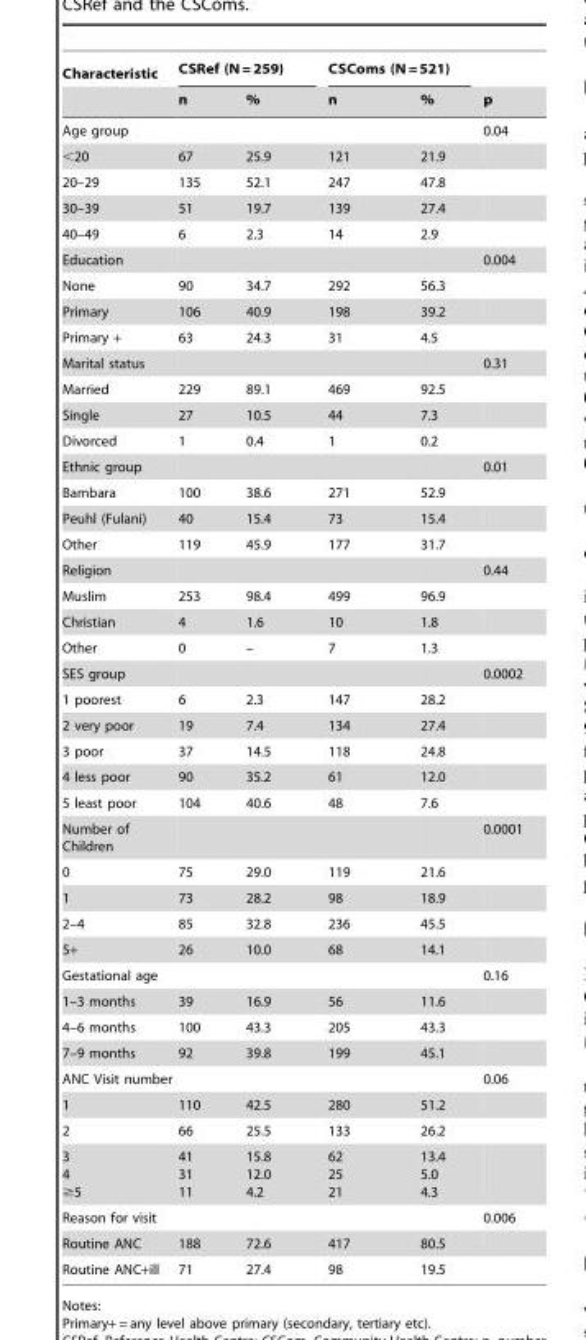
<table><thead><tr><td rowspan="2">Characteristic</td><td colspan="2">CSRef (N = 259)</td><td colspan="2">CSComs (N = 521)</td><td rowspan="2">p</td></tr><tr><td>n</td><td>%</td><td>n</td><td>%</td></tr></thead><tbody><tr><td>Age group</td><td></td><td></td><td></td><td></td><td>0.04</td></tr><tr><td>&lt;20</td><td>67</td><td>25.9</td><td>121</td><td>21.9</td><td></td></tr><tr><td>20–29</td><td>135</td><td>52.1</td><td>247</td><td>47.8</td><td></td></tr><tr><td>30–39</td><td>51</td><td>19.7</td><td>139</td><td>27.4</td><td></td></tr><tr><td>40–49</td><td>6</td><td>2.3</td><td>14</td><td>2.9</td><td></td></tr><tr><td>Education</td><td></td><td></td><td></td><td></td><td>0.004</td></tr><tr><td>None</td><td>90</td><td>34.7</td><td>292</td><td>56.3</td><td></td></tr><tr><td>Primary</td><td>106</td><td>40.9</td><td>198</td><td>39.2</td><td></td></tr><tr><td>Primary +</td><td>63</td><td>24.3</td><td>31</td><td>4.5</td><td></td></tr><tr><td>Marital status</td><td></td><td></td><td></td><td></td><td>0.31</td></tr><tr><td>Married</td><td>229</td><td>89.1</td><td>469</td><td>92.5</td><td></td></tr><tr><td>Single</td><td>27</td><td>10.5</td><td>44</td><td>7.3</td><td></td></tr><tr><td>Divorced</td><td>1</td><td>0.4</td><td>1</td><td>0.2</td><td></td></tr><tr><td>Ethnic group</td><td></td><td></td><td></td><td></td><td>0.01</td></tr><tr><td>Bambara</td><td>100</td><td>38.6</td><td>271</td><td>52.9</td><td></td></tr><tr><td>Peuhl (Fulani)</td><td>40</td><td>15.4</td><td>73</td><td>15.4</td><td></td></tr><tr><td>Other</td><td>119</td><td>45.9</td><td>177</td><td>31.7</td><td></td></tr><tr><td>Religion</td><td></td><td></td><td></td><td></td><td>0.44</td></tr><tr><td>Muslim</td><td>253</td><td>98.4</td><td>499</td><td>96.9</td><td></td></tr><tr><td>Christian</td><td>4</td><td>1.6</td><td>10</td><td>1.8</td><td></td></tr><tr><td>Other</td><td>0</td><td>–</td><td>7</td><td>1.3</td><td></td></tr><tr><td>SES group</td><td></td><td></td><td></td><td></td><td>0.0002</td></tr><tr><td>1 poorest</td><td>6</td><td>2.3</td><td>147</td><td>28.2</td><td></td></tr><tr><td>2 very poor</td><td>19</td><td>7.4</td><td>134</td><td>27.4</td><td></td></tr><tr><td>3 poor</td><td>37</td><td>14.5</td><td>118</td><td>24.8</td><td></td></tr><tr><td>4 less poor</td><td>90</td><td>35.2</td><td>61</td><td>12.0</td><td></td></tr><tr><td>5 least poor</td><td>104</td><td>40.6</td><td>48</td><td>7.6</td><td></td></tr><tr><td>Number of Children</td><td></td><td></td><td></td><td></td><td>0.0001</td></tr><tr><td>0</td><td>75</td><td>29.0</td><td>119</td><td>21.6</td><td></td></tr><tr><td>1</td><td>73</td><td>28.2</td><td>98</td><td>18.9</td><td></td></tr><tr><td>2–4</td><td>85</td><td>32.8</td><td>236</td><td>45.5</td><td></td></tr><tr><td>5+</td><td>26</td><td>10.0</td><td>68</td><td>14.1</td><td></td></tr><tr><td>Gestational age</td><td></td><td></td><td></td><td></td><td>0.16</td></tr><tr><td>1–3 months</td><td>39</td><td>16.9</td><td>56</td><td>11.6</td><td></td></tr><tr><td>4–6 months</td><td>100</td><td>43.3</td><td>205</td><td>43.3</td><td></td></tr><tr><td>7–9 months</td><td>92</td><td>39.8</td><td>199</td><td>45.1</td><td></td></tr><tr><td>ANC Visit number</td><td></td><td></td><td></td><td></td><td>0.06</td></tr><tr><td>1</td><td>110</td><td>42.5</td><td>280</td><td>51.2</td><td></td></tr><tr><td>2</td><td>66</td><td>25.5</td><td>133</td><td>26.2</td><td></td></tr><tr><td>3 4 ≥5</td><td>41 31 11</td><td>15.8 12.0 4.2</td><td>62 25 21</td><td>13.4 5.0 4.3</td><td></td></tr><tr><td>Reason for visit</td><td></td><td></td><td></td><td></td><td>0.006</td></tr><tr><td>Routine ANC</td><td>188</td><td>72.6</td><td>417</td><td>80.5</td><td></td></tr><tr><td>Routine ANC+ill</td><td>71</td><td>27.4</td><td>98</td><td>19.5</td><td></td></tr></tbody></table>